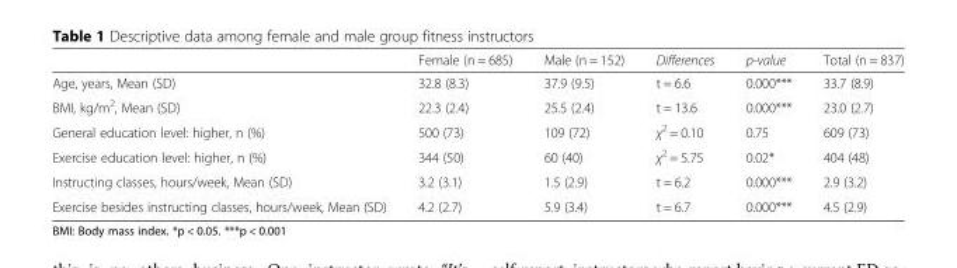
<table><thead><tr><td></td><td>Female (n = 685)</td><td>Male (n = 152)</td><td>Differences</td><td>p-value</td><td>Total (n = 837)</td></tr></thead><tbody><tr><td>Age, years, Mean (SD)</td><td>32.8 (8.3)</td><td>37.9 (9.5)</td><td>t = 6.6</td><td>0.000***</td><td>33.7 (8.9)</td></tr><tr><td>BMI, kg/m<sup>2</sup>, Mean (SD)</td><td>22.3 (2.4)</td><td>25.5 (2.4)</td><td>t = 13.6</td><td>0.000***</td><td>23.0 (2.7)</td></tr><tr><td>General education level: higher, n (%)</td><td>500 (73)</td><td>109 (72)</td><td>χ<sup>2</sup> = 0.10</td><td>0.75</td><td>609 (73)</td></tr><tr><td>Exercise education level: higher, n (%)</td><td>344 (50)</td><td>60 (40)</td><td>χ<sup>2</sup> = 5.75</td><td>0.02*</td><td>404 (48)</td></tr><tr><td>Instructing classes, hours/week, Mean (SD)</td><td>3.2 (3.1)</td><td>1.5 (2.9)</td><td>t = 6.2</td><td>0.000***</td><td>2.9 (3.2)</td></tr><tr><td>Exercise besides instructing classes, hours/week, Mean (SD)</td><td>4.2 (2.7)</td><td>5.9 (3.4)</td><td>t = 6.7</td><td>0.000***</td><td>4.5 (2.9)</td></tr></tbody></table>